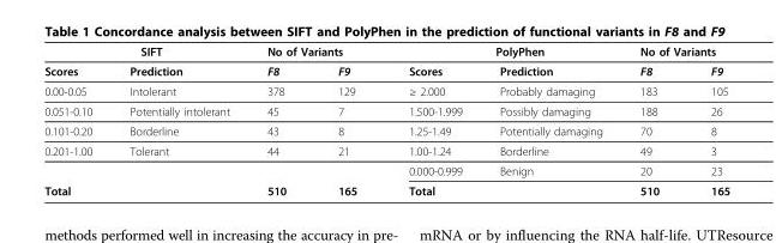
<table><thead><tr><td colspan="2">SIFT</td><td colspan="2">No of Variants</td><td colspan="2">PolyPhen</td><td colspan="2">No of Variants</td></tr><tr><td>Scores</td><td>Prediction</td><td>F8</td><td>F9</td><td>Scores</td><td>Prediction</td><td>F8</td><td>F9</td></tr></thead><tbody><tr><td>0.00-0.05</td><td>Intolerant</td><td>378</td><td>129</td><td>≥ 2.000</td><td>Probably damaging</td><td>183</td><td>105</td></tr><tr><td>0.051-0.10</td><td>Potentially intolerant</td><td>45</td><td>7</td><td>1.500-1.999</td><td>Possibly damaging</td><td>188</td><td>26</td></tr><tr><td>0.101-0.20</td><td>Borderline</td><td>43</td><td>8</td><td>1.25-1.49</td><td>Potentially damaging</td><td>70</td><td>8</td></tr><tr><td rowspan="2">0.201-1.00</td><td>Tolerant</td><td>44</td><td>21</td><td>1.00-1.24</td><td>Borderline</td><td>49</td><td>3</td></tr><tr><td></td><td></td><td></td><td>0.000-0.999</td><td>Benign</td><td>20</td><td>23</td></tr><tr><td colspan="2">Total</td><td>510</td><td>165</td><td colspan="2">Total</td><td>510</td><td>165</td></tr></tbody></table>